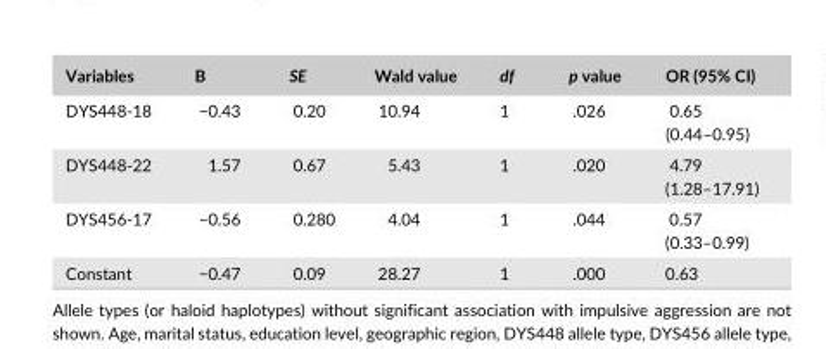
<table><thead><tr><td>Variables</td><td>B</td><td>SE</td><td>Wald value</td><td>df</td><td>p value</td><td>OR (95% CI)</td></tr></thead><tbody><tr><td>DYS448- 18</td><td>−0.43</td><td>0.20</td><td>10.94</td><td>1</td><td>.026</td><td>0.65 (0.44–0.95)</td></tr><tr><td>DYS448- 22</td><td>1.57</td><td>0.67</td><td>5.43</td><td>1</td><td>.020</td><td>4.79 (1.28–17.91)</td></tr><tr><td>DYS456- 17</td><td>−0.56</td><td>0.280</td><td>4.04</td><td>1</td><td>.044</td><td>0.57 (0.33–0.99)</td></tr><tr><td>Constant</td><td>−0.47</td><td>0.09</td><td>28.27</td><td>1</td><td>.000</td><td>0.63</td></tr></tbody></table>